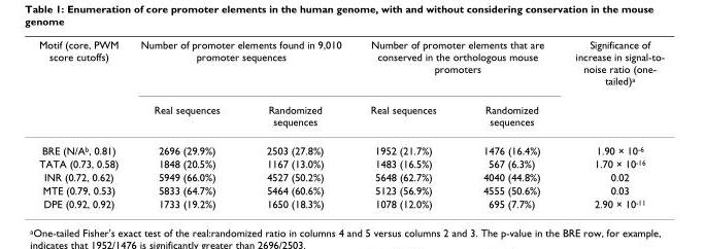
<table><thead><tr><td rowspan="2">Motif (core, PWM score cutoffs)</td><td colspan="2">Number of promoter elements found in 9,010 promoter sequences</td><td colspan="2">Number of promoter elements that are conserved in the orthologous mouse promoters</td><td rowspan="2">Significance of increase in signal-to- noise ratio (one- tailed)a</td></tr><tr><td>Real sequences</td><td>Randomized sequences</td><td>Real sequences</td><td>Randomized sequences</td></tr></thead><tbody><tr><td>BRE (N/Ab, 0.81)</td><td>2696 (29.9%)</td><td>2503 (27.8%)</td><td>1952 (21.7%)</td><td>1476 (16.4%)</td><td>1.90 × 10-6</td></tr><tr><td>TATA (0.73, 0.58)</td><td>1848 (20.5%)</td><td>1167 (13.0%)</td><td>1483 (16.5%)</td><td>567 (6.3%)</td><td>1.70 × 10-16</td></tr><tr><td>INR (0.72, 0.62)</td><td>5949 (66.0%)</td><td>4527 (50.2%)</td><td>5648 (62.7%)</td><td>4040 (44.8%)</td><td>0.02</td></tr><tr><td>MTE (0.79, 0.53)</td><td>5833 (64.7%)</td><td>5464 (60.6%)</td><td>5123 (56.9%)</td><td>4555 (50.6%)</td><td>0.03</td></tr><tr><td>DPE (0.92, 0.92)</td><td>1733 (19.2%)</td><td>1650 (18.3%)</td><td>1078 (12.0%)</td><td>695 (7.7%)</td><td>2.90 × 10-11</td></tr></tbody></table>